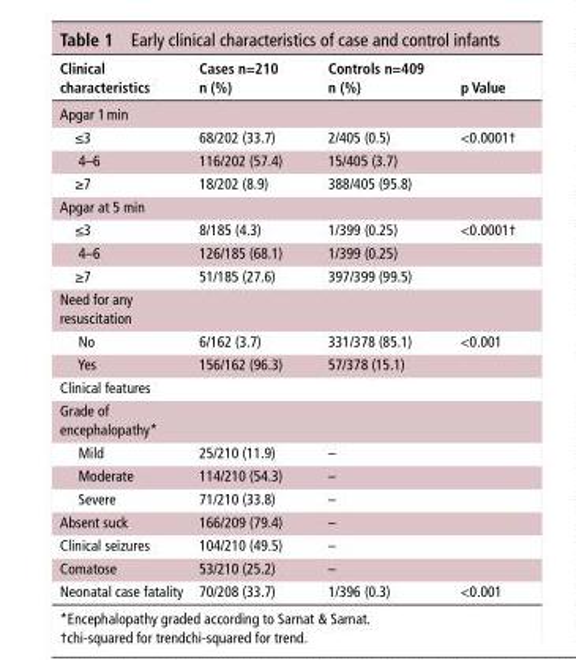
<table><thead><tr><td>Clinical characteristics</td><td>Cases n=210 n (%)</td><td>Controls n=409 n (%)</td><td>p Value</td></tr></thead><tbody><tr><td colspan="4">Apgar 1 min</td></tr><tr><td>≤3</td><td>68/202 (33.7)</td><td>2/405 (0.5)</td><td>&lt;0.0001†</td></tr><tr><td>4–6</td><td>116/202 (57.4)</td><td>15/405 (3.7)</td><td></td></tr><tr><td>≥7</td><td>18/202 (8.9)</td><td>388/405 (95.8)</td><td></td></tr><tr><td colspan="4">Apgar at 5 min</td></tr><tr><td>≤3</td><td>8/185 (4.3)</td><td>1/399 (0.25)</td><td>&lt;0.0001†</td></tr><tr><td>4–6</td><td>126/185 (68.1)</td><td>1/399 (0.25)</td><td></td></tr><tr><td>≥7</td><td>51/185 (27.6)</td><td>397/399 (99.5)</td><td></td></tr><tr><td colspan="4">Need for any resuscitation</td></tr><tr><td>No</td><td>6/162 (3.7)</td><td>331/378 (85.1)</td><td>&lt;0.001</td></tr><tr><td>Yes</td><td>156/162 (96.3)</td><td>57/378 (15.1)</td><td></td></tr><tr><td colspan="4">Clinical features</td></tr><tr><td colspan="4">Grade of encephalopathy*</td></tr><tr><td>Mild</td><td>25/210 (11.9)</td><td>–</td><td></td></tr><tr><td>Moderate</td><td>114/210 (54.3)</td><td>–</td><td></td></tr><tr><td>Severe</td><td>71/210 (33.8)</td><td>–</td><td></td></tr><tr><td>Absent suck</td><td>166/209 (79.4)</td><td>–</td><td></td></tr><tr><td>Clinical seizures</td><td>104/210 (49.5)</td><td>–</td><td></td></tr><tr><td>Comatose</td><td>53/210 (25.2)</td><td>–</td><td></td></tr><tr><td>Neonatal case fatality</td><td>70/208 (33.7)</td><td>1/396 (0.3)</td><td>&lt;0.001</td></tr></tbody></table>